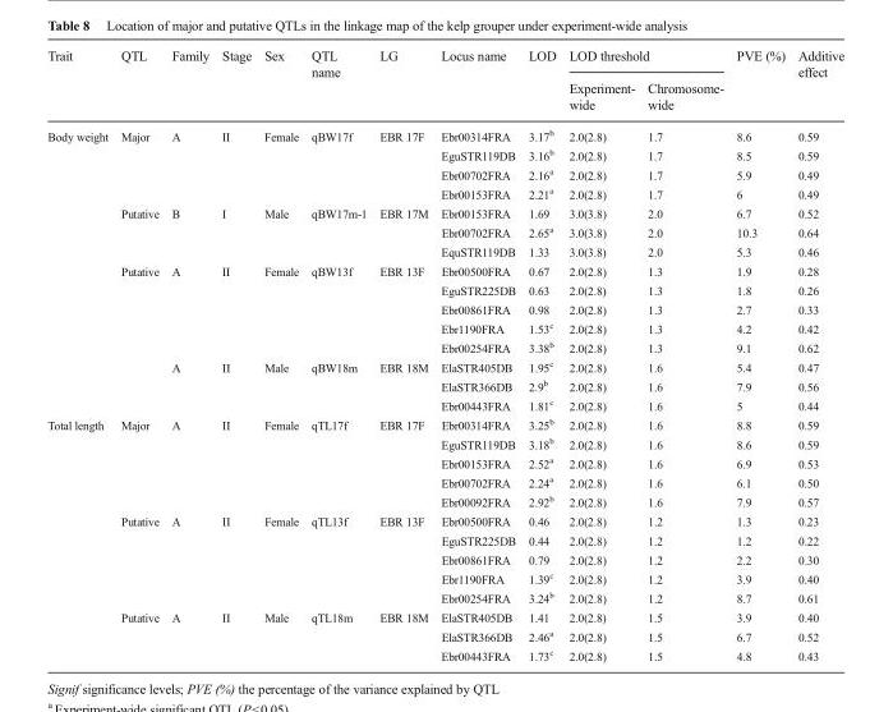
<table><thead><tr><td rowspan="2">Trait</td><td rowspan="2">QTL</td><td rowspan="2">Family</td><td rowspan="2">Stage</td><td rowspan="2">Sex</td><td rowspan="2">QTL name</td><td rowspan="2">LG</td><td rowspan="2">Locus name</td><td rowspan="2">LOD</td><td colspan="2">LOD threshold</td><td rowspan="2">PVE (%)</td><td rowspan="2">Additive effect</td></tr><tr><td>Experiment- wide</td><td>Chromosome- wide</td></tr></thead><tbody><tr><td rowspan="15">Body weight</td><td>Major</td><td>A</td><td>II</td><td>Female</td><td>qBW17f</td><td>EBR 17F</td><td>Ebr00314FRA</td><td>3.17<sup>b</sup></td><td>2.0(2.8)</td><td>1.7</td><td>8.6</td><td>0.59</td></tr><tr><td></td><td></td><td></td><td></td><td></td><td></td><td>EguSTR119DB</td><td>3.16<sup>b</sup></td><td>2.0(2.8)</td><td>1.7</td><td>8.5</td><td>0.59</td></tr><tr><td></td><td></td><td></td><td></td><td></td><td></td><td>Ebr00702FRA</td><td>2.16<sup>a</sup></td><td>2.0(2.8)</td><td>1.7</td><td>5.9</td><td>0.49</td></tr><tr><td></td><td></td><td></td><td></td><td></td><td></td><td>Ebr00153FRA</td><td>2.21<sup>a</sup></td><td>2.0(2.8)</td><td>1.7</td><td>6</td><td>0.49</td></tr><tr><td>Putative</td><td>B</td><td>I</td><td>Male</td><td>qBW17m-1</td><td>EBR 17M</td><td>Ebr00153FRA</td><td>1.69</td><td>3.0(3.8)</td><td>2.0</td><td>6.7</td><td>0.52</td></tr><tr><td></td><td></td><td></td><td></td><td></td><td></td><td>Ebr00702FRA</td><td>2.65<sup>a</sup></td><td>3.0(3.8)</td><td>2.0</td><td>10.3</td><td>0.64</td></tr><tr><td></td><td></td><td></td><td></td><td></td><td></td><td>EquSTR119DB</td><td>1.33</td><td>3.0(3.8)</td><td>2.0</td><td>5.3</td><td>0.46</td></tr><tr><td>Putative</td><td>A</td><td>II</td><td>Female</td><td>qBW13f</td><td>EBR 13F</td><td>Ebr00500FRA</td><td>0.67</td><td>2.0(2.8)</td><td>1.3</td><td>1.9</td><td>0.28</td></tr><tr><td></td><td></td><td></td><td></td><td></td><td></td><td>EguSTR225DB</td><td>0.63</td><td>2.0(2.8)</td><td>1.3</td><td>1.8</td><td>0.26</td></tr><tr><td></td><td></td><td></td><td></td><td></td><td></td><td>Ebr00861FRA</td><td>0.98</td><td>2.0(2.8)</td><td>1.3</td><td>2.7</td><td>0.33</td></tr><tr><td></td><td></td><td></td><td></td><td></td><td></td><td>Ebr1190FRA</td><td>1.53<sup>c</sup></td><td>2.0(2.8)</td><td>1.3</td><td>4.2</td><td>0.42</td></tr><tr><td></td><td></td><td></td><td></td><td></td><td></td><td>Ebr00254FRA</td><td>3.38<sup>b</sup></td><td>2.0(2.8)</td><td>1.3</td><td>9.1</td><td>0.62</td></tr><tr><td></td><td>A</td><td>II</td><td>Male</td><td>qBW18m</td><td>EBR 18M</td><td>ElaSTR405DB</td><td>1.95<sup>c</sup></td><td>2.0(2.8)</td><td>1.6</td><td>5.4</td><td>0.47</td></tr><tr><td></td><td></td><td></td><td></td><td></td><td></td><td>ElaSTR366DB</td><td>2.9<sup>b</sup></td><td>2.0(2.8)</td><td>1.6</td><td>7.9</td><td>0.56</td></tr><tr><td></td><td></td><td></td><td></td><td></td><td></td><td>Ebr00443FRA</td><td>1.81<sup>c</sup></td><td>2.0(2.8)</td><td>1.6</td><td>5</td><td>0.44</td></tr><tr><td rowspan="13">Total length</td><td>Major</td><td>A</td><td>II</td><td>Female</td><td>qTL17f</td><td>EBR 17F</td><td>Ebr00314FRA</td><td>3.25<sup>b</sup></td><td>2.0(2.8)</td><td>1.6</td><td>8.8</td><td>0.59</td></tr><tr><td></td><td></td><td></td><td></td><td></td><td></td><td>EguSTR119DB</td><td>3.18<sup>b</sup></td><td>2.0(2.8)</td><td>1.6</td><td>8.6</td><td>0.59</td></tr><tr><td></td><td></td><td></td><td></td><td></td><td></td><td>Ebr00153FRA</td><td>2.52<sup>a</sup></td><td>2.0(2.8)</td><td>1.6</td><td>6.9</td><td>0.53</td></tr><tr><td></td><td></td><td></td><td></td><td></td><td></td><td>Ebr00702FRA</td><td>2.24<sup>a</sup></td><td>2.0(2.8)</td><td>1.6</td><td>6.1</td><td>0.50</td></tr><tr><td></td><td></td><td></td><td></td><td></td><td></td><td>Ebr00092FRA</td><td>2.92<sup>b</sup></td><td>2.0(2.8)</td><td>1.6</td><td>7.9</td><td>0.57</td></tr><tr><td>Putative</td><td>A</td><td>II</td><td>Female</td><td>qTL13f</td><td>EBR 13F</td><td>Ebr00500FRA</td><td>0.46</td><td>2.0(2.8)</td><td>1.2</td><td>1.3</td><td>0.23</td></tr><tr><td></td><td></td><td></td><td></td><td></td><td></td><td>EguSTR225DB</td><td>0.44</td><td>2.0(2.8)</td><td>1.2</td><td>1.2</td><td>0.22</td></tr><tr><td></td><td></td><td></td><td></td><td></td><td></td><td>Ebr00861FRA</td><td>0.79</td><td>2.0(2.8)</td><td>1.2</td><td>2.2</td><td>0.30</td></tr><tr><td></td><td></td><td></td><td></td><td></td><td></td><td>Ebr1190FRA</td><td>1.39<sup>c</sup></td><td>2.0(2.8)</td><td>1.2</td><td>3.9</td><td>0.40</td></tr><tr><td></td><td></td><td></td><td></td><td></td><td></td><td>Ebr00254FRA</td><td>3.24<sup>b</sup></td><td>2.0(2.8)</td><td>1.2</td><td>8.7</td><td>0.61</td></tr><tr><td>Putative</td><td>A</td><td>II</td><td>Male</td><td>qTL18m</td><td>EBR 18M</td><td>ElaSTR405DB</td><td>1.41</td><td>2.0(2.8)</td><td>1.5</td><td>3.9</td><td>0.40</td></tr><tr><td></td><td></td><td></td><td></td><td></td><td></td><td>ElaSTR366DB</td><td>2.46<sup>a</sup></td><td>2.0(2.8)</td><td>1.5</td><td>6.7</td><td>0.52</td></tr><tr><td></td><td></td><td></td><td></td><td></td><td></td><td>Ebr00443FRA</td><td>1.73<sup>c</sup></td><td>2.0(2.8)</td><td>1.5</td><td>4.8</td><td>0.43</td></tr></tbody></table>